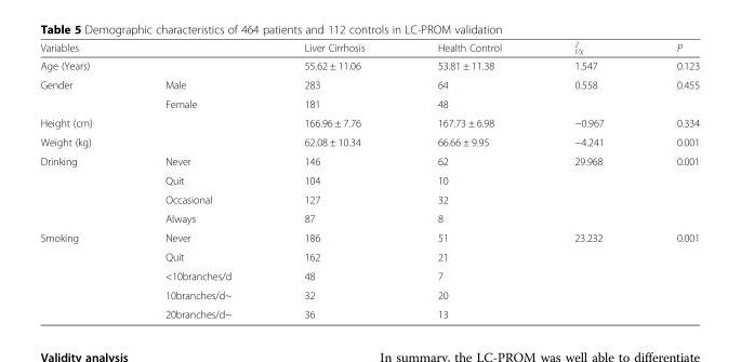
<table><thead><tr><td>Variables</td><td></td><td>Liver Cirrhosis</td><td>Health Control</td><td><sub>t/χ</sub> <sup>2</sup></td><td>P</td></tr></thead><tbody><tr><td>Age (Years)</td><td></td><td>55.62 ± 11.06</td><td>53.81 ± 11.38</td><td>1.547</td><td>0.123</td></tr><tr><td rowspan="2">Gender</td><td>Male</td><td>283</td><td>64</td><td rowspan="2">0.558</td><td rowspan="2">0.455</td></tr><tr><td>Female</td><td>181</td><td>48</td></tr><tr><td>Height (cm)</td><td></td><td>166.96 ± 7.76</td><td>167.73 ± 6.98</td><td>−0.967</td><td>0.334</td></tr><tr><td>Weight (kg)</td><td></td><td>62.08 ± 10.34</td><td>66.66 ± 9.95</td><td>−4.241</td><td>0.001</td></tr><tr><td rowspan="4">Drinking</td><td>Never</td><td>146</td><td>62</td><td rowspan="4">29.968</td><td rowspan="4">0.001</td></tr><tr><td>Quit</td><td>104</td><td>10</td></tr><tr><td>Occasional</td><td>127</td><td>32</td></tr><tr><td>Always</td><td>87</td><td>8</td></tr><tr><td rowspan="5">Smoking</td><td>Never</td><td>186</td><td>51</td><td rowspan="5">23.232</td><td rowspan="5">0.001</td></tr><tr><td>Quit</td><td>162</td><td>21</td></tr><tr><td>&lt;10branches/d</td><td>48</td><td>7</td></tr><tr><td>10branches/d~</td><td>32</td><td>20</td></tr><tr><td>20branches/d~</td><td>36</td><td>13</td></tr></tbody></table>